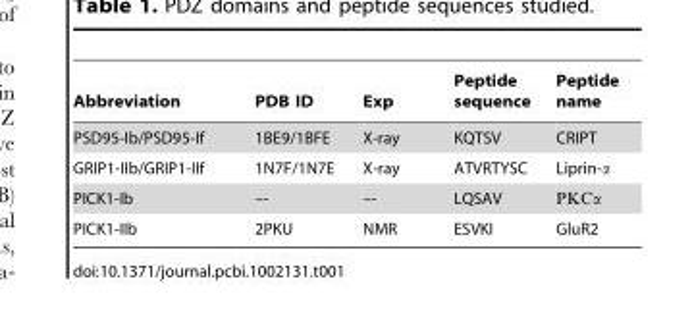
<table><thead><tr><td>Abbreviation</td><td>PDB ID</td><td>Exp</td><td>Peptide sequence</td><td>Peptide name</td></tr></thead><tbody><tr><td>PSD95-Ib/PSD95-If</td><td>1BE9/1BFE</td><td>X-ray</td><td>KQTSV</td><td>CRIPT</td></tr><tr><td>GRIP1-IIb/GRIP1-IIf</td><td>1N7F/1N7E</td><td>X-ray</td><td>ATVRTYSC</td><td>Liprin-a</td></tr><tr><td>PICK1-Ib</td><td>–-</td><td>–-</td><td>LQSAV</td><td>PKCa</td></tr><tr><td>PICK1-IIb</td><td>2PKU</td><td>NMR</td><td>ESVKI</td><td>GluR2</td></tr></tbody></table>